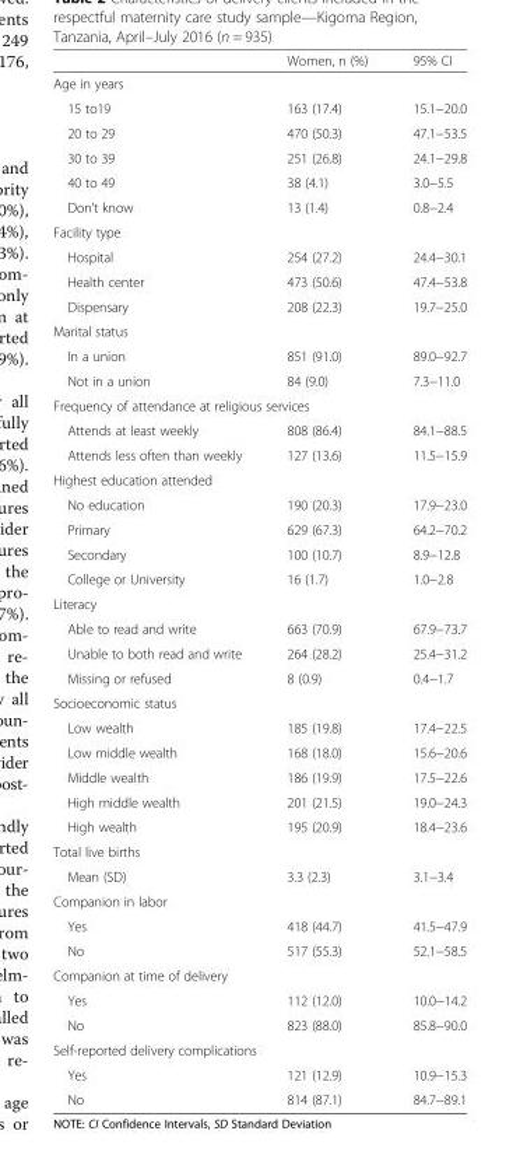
<table><thead><tr><td></td><td>Women, n (%)</td><td>95% CI</td></tr></thead><tbody><tr><td colspan="3">Age in years</td></tr><tr><td>15 to19</td><td>163 (17.4)</td><td>15.1−20.0</td></tr><tr><td>20 to 29</td><td>470 (50.3)</td><td>47.1−53.5</td></tr><tr><td>30 to 39</td><td>251 (26.8)</td><td>24.1−29.8</td></tr><tr><td>40 to 49</td><td>38 (4.1)</td><td>3.0−5.5</td></tr><tr><td>Don’t know</td><td>13 (1.4)</td><td>0.8−2.4</td></tr><tr><td colspan="3">Facility type</td></tr><tr><td>Hospital</td><td>254 (27.2)</td><td>24.4−30.1</td></tr><tr><td>Health center</td><td>473 (50.6)</td><td>47.4−53.8</td></tr><tr><td>Dispensary</td><td>208 (22.3)</td><td>19.7−25.0</td></tr><tr><td colspan="3">Marital status</td></tr><tr><td>In a union</td><td>851 (91.0)</td><td>89.0−92.7</td></tr><tr><td>Not in a union</td><td>84 (9.0)</td><td>7.3−11.0</td></tr><tr><td colspan="3">Frequency of attendance at religious services</td></tr><tr><td>Attends at least weekly</td><td>808 (86.4)</td><td>84.1−88.5</td></tr><tr><td>Attends less often than weekly</td><td>127 (13.6)</td><td>11.5−15.9</td></tr><tr><td colspan="3">Highest education attended</td></tr><tr><td>No education</td><td>190 (20.3)</td><td>17.9−23.0</td></tr><tr><td>Primary</td><td>629 (67.3)</td><td>64.2−70.2</td></tr><tr><td>Secondary</td><td>100 (10.7)</td><td>8.9−12.8</td></tr><tr><td>College or University</td><td>16 (1.7)</td><td>1.0−2.8</td></tr><tr><td colspan="3">Literacy</td></tr><tr><td>Able to read and write</td><td>663 (70.9)</td><td>67.9−73.7</td></tr><tr><td>Unable to both read and write</td><td>264 (28.2)</td><td>25.4−31.2</td></tr><tr><td>Missing or refused</td><td>8 (0.9)</td><td>0.4−1.7</td></tr><tr><td colspan="3">Socioeconomic status</td></tr><tr><td>Low wealth</td><td>185 (19.8)</td><td>17.4−22.5</td></tr><tr><td>Low middle wealth</td><td>168 (18.0)</td><td>15.6−20.6</td></tr><tr><td>Middle wealth</td><td>186 (19.9)</td><td>17.5−22.6</td></tr><tr><td>High middle wealth</td><td>201 (21.5)</td><td>19.0−24.3</td></tr><tr><td>High wealth</td><td>195 (20.9)</td><td>18.4−23.6</td></tr><tr><td colspan="3">Total live births</td></tr><tr><td>Mean (SD)</td><td>3.3 (2.3)</td><td>3.1−3.4</td></tr><tr><td colspan="3">Companion in labor</td></tr><tr><td>Yes</td><td>418 (44.7)</td><td>41.5−47.9</td></tr><tr><td>No</td><td>517 (55.3)</td><td>52.1−58.5</td></tr><tr><td colspan="3">Companion at time of delivery</td></tr><tr><td>Yes</td><td>112 (12.0)</td><td>10.0−14.2</td></tr><tr><td>No</td><td>823 (88.0)</td><td>85.8−90.0</td></tr><tr><td colspan="3">Self-reported delivery complications</td></tr><tr><td>Yes</td><td>121 (12.9)</td><td>10.9−15.3</td></tr><tr><td>No</td><td>814 (87.1)</td><td>84.7−89.1</td></tr></tbody></table>